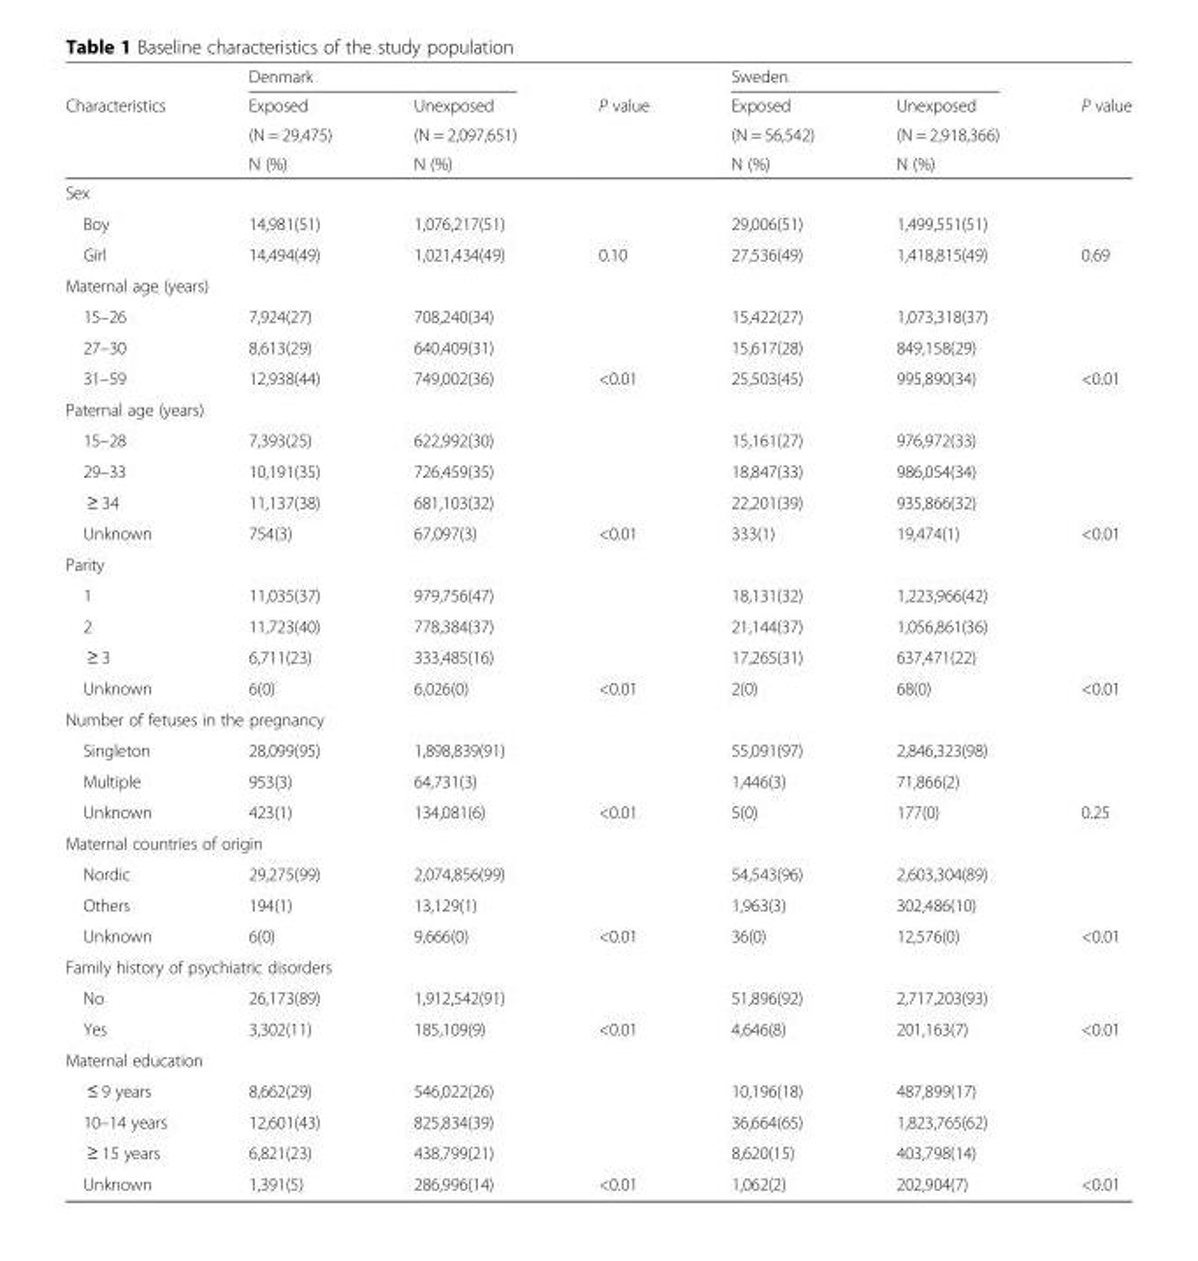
<table><thead><tr><td rowspan="4">Characteristics</td><td colspan="2">Denmark</td><td rowspan="4">P value</td><td colspan="2">Sweden</td><td rowspan="4">P value</td></tr><tr><td rowspan="3">Exposed (N = 29,475) N (%)</td><td rowspan="3">Unexposed (N = 2,097,651) N (%)</td><td rowspan="3">Exposed (N = 56,542) N (%)</td><td rowspan="3">Unexposed (N = 2,918,366) N (%)</td></tr><tr></tr><tr></tr></thead><tbody><tr><td colspan="7">Sex</td></tr><tr><td>Boy</td><td>14,981(51)</td><td>1,076,217(51)</td><td></td><td>29,006(51)</td><td>1,499,551(51)</td><td></td></tr><tr><td>Girl</td><td>14,494(49)</td><td>1,021,434(49)</td><td>0.10</td><td>27,536(49)</td><td>1,418,815(49)</td><td>0.69</td></tr><tr><td colspan="7">Maternal age (years)</td></tr><tr><td>15–26</td><td>7,924(27)</td><td>708,240(34)</td><td></td><td>15,422(27)</td><td>1,073,318(37)</td><td></td></tr><tr><td>27–30</td><td>8,613(29)</td><td>640,409(31)</td><td></td><td>15,617(28)</td><td>849,158(29)</td><td></td></tr><tr><td>31–59</td><td>12,938(44)</td><td>749,002(36)</td><td>&lt;0.01</td><td>25,503(45)</td><td>995,890(34)</td><td>&lt;0.01</td></tr><tr><td colspan="7">Paternal age (years)</td></tr><tr><td>15–28</td><td>7,393(25)</td><td>622,992(30)</td><td></td><td>15,161(27)</td><td>976,972(33)</td><td></td></tr><tr><td>29–33</td><td>10,191(35)</td><td>726,459(35)</td><td></td><td>18,847(33)</td><td>986,054(34)</td><td></td></tr><tr><td>≥ 34</td><td>11,137(38)</td><td>681,103(32)</td><td></td><td>22,201(39)</td><td>935,866(32)</td><td></td></tr><tr><td>Unknown</td><td>754(3)</td><td>67,097(3)</td><td>&lt;0.01</td><td>333(1)</td><td>19,474(1)</td><td>&lt;0.01</td></tr><tr><td colspan="7">Parity</td></tr><tr><td>1</td><td>11,035(37)</td><td>979,756(47)</td><td></td><td>18,131(32)</td><td>1,223,966(42)</td><td></td></tr><tr><td>2</td><td>11,723(40)</td><td>778,384(37)</td><td></td><td>21,144(37)</td><td>1,056,861(36)</td><td></td></tr><tr><td>≥ 3</td><td>6,711(23)</td><td>333,485(16)</td><td></td><td>17,265(31)</td><td>637,471(22)</td><td></td></tr><tr><td>Unknown</td><td>6(0)</td><td>6,026(0)</td><td>&lt;0.01</td><td>2(0)</td><td>68(0)</td><td>&lt;0.01</td></tr><tr><td colspan="7">Number of fetuses in the pregnancy</td></tr><tr><td>Singleton</td><td>28,099(95)</td><td>1,898,839(91)</td><td></td><td>55,091(97)</td><td>2,846,323(98)</td><td></td></tr><tr><td>Multiple</td><td>953(3)</td><td>64,731(3)</td><td></td><td>1,446(3)</td><td>71,866(2)</td><td></td></tr><tr><td>Unknown</td><td>423(1)</td><td>134,081(6)</td><td>&lt;0.01</td><td>5(0)</td><td>177(0)</td><td>0.25</td></tr><tr><td colspan="7">Maternal countries of origin</td></tr><tr><td>Nordic</td><td>29,275(99)</td><td>2,074,856(99)</td><td></td><td>54,543(96)</td><td>2,603,304(89)</td><td></td></tr><tr><td>Others</td><td>194(1)</td><td>13,129(1)</td><td></td><td>1,963(3)</td><td>302,486(10)</td><td></td></tr><tr><td>Unknown</td><td>6(0)</td><td>9,666(0)</td><td>&lt;0.01</td><td>36(0)</td><td>12,576(0)</td><td>&lt;0.01</td></tr><tr><td colspan="7">Family history of psychiatric disorders</td></tr><tr><td>No</td><td>26,173(89)</td><td>1,912,542(91)</td><td></td><td>51,896(92)</td><td>2,717,203(93)</td><td></td></tr><tr><td>Yes</td><td>3,302(11)</td><td>185,109(9)</td><td>&lt;0.01</td><td>4,646(8)</td><td>201,163(7)</td><td>&lt;0.01</td></tr><tr><td colspan="7">Maternal education</td></tr><tr><td>≤ 9 years</td><td>8,662(29)</td><td>546,022(26)</td><td></td><td>10,196(18)</td><td>487,899(17)</td><td></td></tr><tr><td>10–14 years</td><td>12,601(43)</td><td>825,834(39)</td><td></td><td>36,664(65)</td><td>1,823,765(62)</td><td></td></tr><tr><td>≥ 15 years</td><td>6,821(23)</td><td>438,799(21)</td><td></td><td>8,620(15)</td><td>403,798(14)</td><td></td></tr><tr><td>Unknown</td><td>1,391(5)</td><td>286,996(14)</td><td>&lt;0.01</td><td>1,062(2)</td><td>202,904(7)</td><td>&lt;0.01</td></tr></tbody></table>